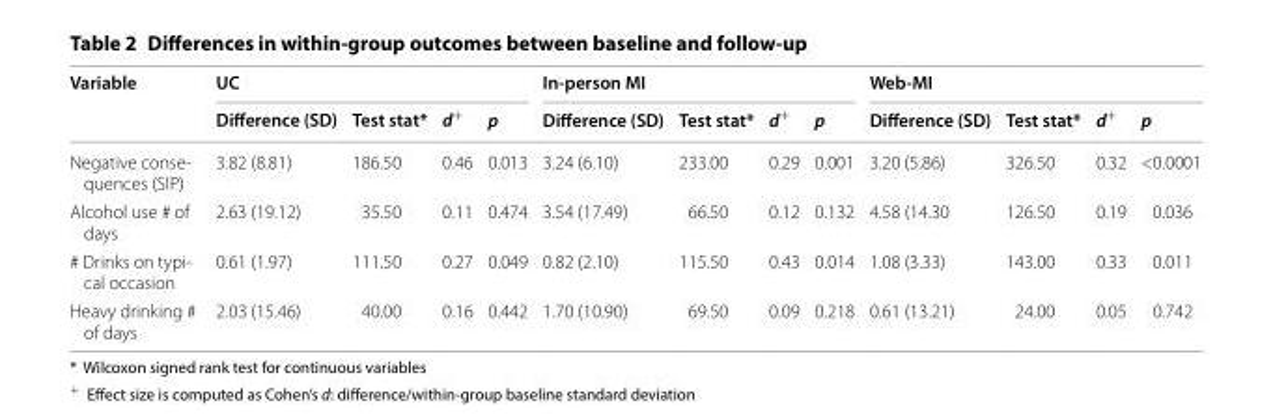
<table><thead><tr><td rowspan="2">Variable</td><td colspan="4">UC</td><td colspan="4">In-person MI</td><td colspan="4">Web-MI</td></tr><tr><td>Difference (SD)</td><td>Test stat*</td><td>d<sup>+</sup></td><td>p</td><td>Difference (SD)</td><td>Test stat*</td><td>d<sup>+</sup></td><td>p</td><td>Difference (SD)</td><td>Test stat*</td><td>d<sup>+</sup></td><td>p</td></tr></thead><tbody><tr><td>Negative conse- quences (SIP)</td><td>3.82 (8.81)</td><td>186.50</td><td>0.46</td><td>0.013</td><td>3.24 (6.10)</td><td>233.00</td><td>0.29</td><td>0.001</td><td>3.20 (5.86)</td><td>326.50</td><td>0.32</td><td>&lt;0.0001</td></tr><tr><td>Alcohol use # of days</td><td>2.63 (19.12)</td><td>35.50</td><td>0.11</td><td>0.474</td><td>3.54 (17.49)</td><td>66.50</td><td>0.12</td><td>0.132</td><td>4.58 (14.30</td><td>126.50</td><td>0.19</td><td>0.036</td></tr><tr><td># Drinks on typi- cal occasion</td><td>0.61 (1.97)</td><td>111.50</td><td>0.27</td><td>0.049</td><td>0.82 (2.10)</td><td>115.50</td><td>0.43</td><td>0.014</td><td>1.08 (3.33)</td><td>143.00</td><td>0.33</td><td>0.011</td></tr><tr><td>Heavy drinking # of days</td><td>2.03 (15.46)</td><td>40.00</td><td>0.16</td><td>0.442</td><td>1.70 (10.90)</td><td>69.50</td><td>0.09</td><td>0.218</td><td>0.61 (13.21)</td><td>24.00</td><td>0.05</td><td>0.742</td></tr></tbody></table>